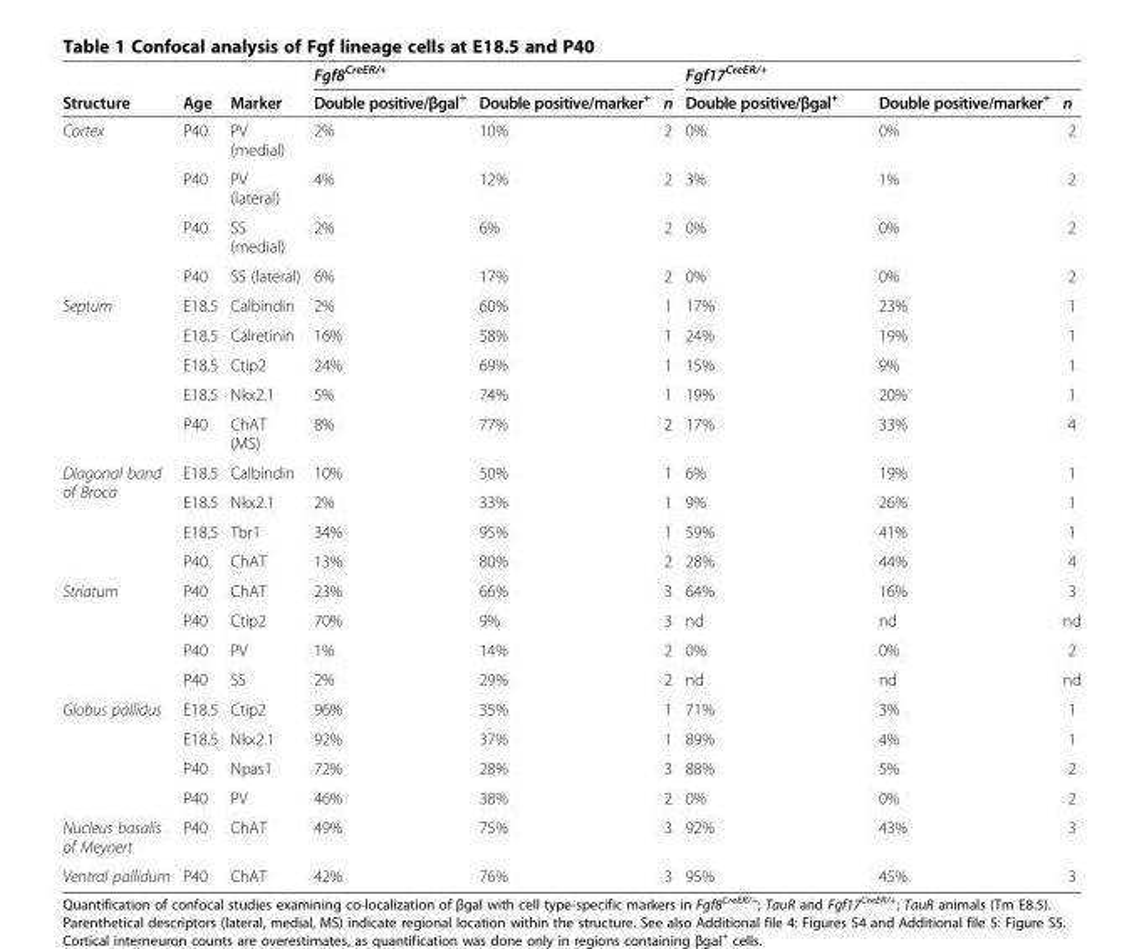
<table><thead><tr><td rowspan="2">Structure</td><td rowspan="2">Age</td><td rowspan="2">Marker</td><td colspan="3">Fgf8<sup>CreER/+</sup></td><td colspan="3">Fgf17<sup>CreER/+</sup></td></tr><tr><td>Double positive/βgal<sup>+</sup></td><td>Double positive/marker<sup>+</sup></td><td>n</td><td>Double positive/βgal<sup>+</sup></td><td>Double positive/marker<sup>+</sup></td><td>n</td></tr></thead><tbody><tr><td rowspan="4">Cortex</td><td>P40</td><td>PV (medial)</td><td>2%</td><td>10%</td><td>2</td><td>0%</td><td>0%</td><td>2</td></tr><tr><td>P40</td><td>PV (lateral)</td><td>4%</td><td>12%</td><td>2</td><td>3%</td><td>1%</td><td>2</td></tr><tr><td>P40</td><td>SS (medial)</td><td>2%</td><td>6%</td><td>2</td><td>0%</td><td>0%</td><td>2</td></tr><tr><td>P40</td><td>SS (lateral)</td><td>6%</td><td>17%</td><td>2</td><td>0%</td><td>0%</td><td>2</td></tr><tr><td rowspan="5">Septum</td><td>E18.5</td><td>Calbindin</td><td>2%</td><td>60%</td><td>1</td><td>17%</td><td>23%</td><td>1</td></tr><tr><td>E18.5</td><td>Calretinin</td><td>16%</td><td>58%</td><td>1</td><td>24%</td><td>19%</td><td>1</td></tr><tr><td>E18.5</td><td>Ctip2</td><td>24%</td><td>69%</td><td>1</td><td>15%</td><td>9%</td><td>1</td></tr><tr><td>E18.5</td><td>Nkx2.1</td><td>5%</td><td>74%</td><td>1</td><td>19%</td><td>20%</td><td>1</td></tr><tr><td>P40</td><td>ChAT (MS)</td><td>8%</td><td>77%</td><td>2</td><td>17%</td><td>33%</td><td>4</td></tr><tr><td rowspan="4">Diagonal band of Broca</td><td>E18.5</td><td>Calbindin</td><td>10%</td><td>50%</td><td>1</td><td>6%</td><td>19%</td><td>1</td></tr><tr><td>E18.5</td><td>Nkx2.1</td><td>2%</td><td>33%</td><td>1</td><td>9%</td><td>26%</td><td>1</td></tr><tr><td>E18.5</td><td>Tbr1</td><td>34%</td><td>95%</td><td>1</td><td>59%</td><td>41%</td><td>1</td></tr><tr><td>P40</td><td>ChAT</td><td>13%</td><td>80%</td><td>2</td><td>28%</td><td>44%</td><td>4</td></tr><tr><td rowspan="4">Striatum</td><td>P40</td><td>ChAT</td><td>23%</td><td>66%</td><td>3</td><td>64%</td><td>16%</td><td>3</td></tr><tr><td>P40</td><td>Ctip2</td><td>70%</td><td>9%</td><td>3</td><td>nd</td><td>nd</td><td>nd</td></tr><tr><td>P40</td><td>PV</td><td>1%</td><td>14%</td><td>2</td><td>0%</td><td>0%</td><td>2</td></tr><tr><td>P40</td><td>SS</td><td>2%</td><td>29%</td><td>2</td><td>nd</td><td>nd</td><td>nd</td></tr><tr><td rowspan="4">Globus pallidus</td><td>E18.5</td><td>Ctip2</td><td>96%</td><td>35%</td><td>1</td><td>71%</td><td>3%</td><td>1</td></tr><tr><td>E18.5</td><td>Nkx2.1</td><td>92%</td><td>37%</td><td>1</td><td>89%</td><td>4%</td><td>1</td></tr><tr><td>P40</td><td>Npas1</td><td>72%</td><td>28%</td><td>3</td><td>88%</td><td>5%</td><td>2</td></tr><tr><td>P40</td><td>PV</td><td>46%</td><td>38%</td><td>2</td><td>0%</td><td>0%</td><td>2</td></tr><tr><td>Nucleus basalis of Meynert</td><td>P40</td><td>ChAT</td><td>49%</td><td>75%</td><td>3</td><td>92%</td><td>43%</td><td>3</td></tr><tr><td>Ventral pallidum</td><td>P40</td><td>ChAT</td><td>42%</td><td>76%</td><td>3</td><td>95%</td><td>45%</td><td>3</td></tr></tbody></table>